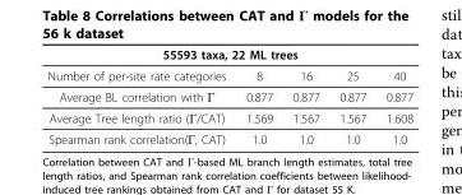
<table><thead><tr><td colspan="5">55593 taxa, 22 ML trees</td></tr><tr><td>Number of per-site rate categories</td><td>8</td><td>16</td><td>25</td><td>40</td></tr></thead><tbody><tr><td>Average BL correlation with Γ</td><td>0.877</td><td>0.877</td><td>0.877</td><td>0.877</td></tr><tr><td>Average Tree length ratio (Γ/CAT)</td><td>1.569</td><td>1.567</td><td>1.567</td><td>1.608</td></tr><tr><td>Spearman rank correlation(Γ, CAT)</td><td>1.0</td><td>1.0</td><td>1.0</td><td>1.0</td></tr></tbody></table>